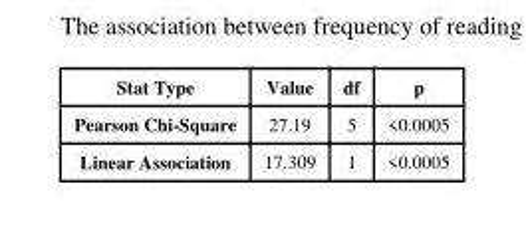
<table><thead><tr><td>Stat Type</td><td>Value</td><td>df</td><td>p</td></tr></thead><tbody><tr><td>Pearson Chi-Square</td><td>27.19</td><td>5</td><td>&lt;0.0005</td></tr><tr><td>Linear Association</td><td>17.309</td><td>1</td><td>&lt;0.0005</td></tr></tbody></table>